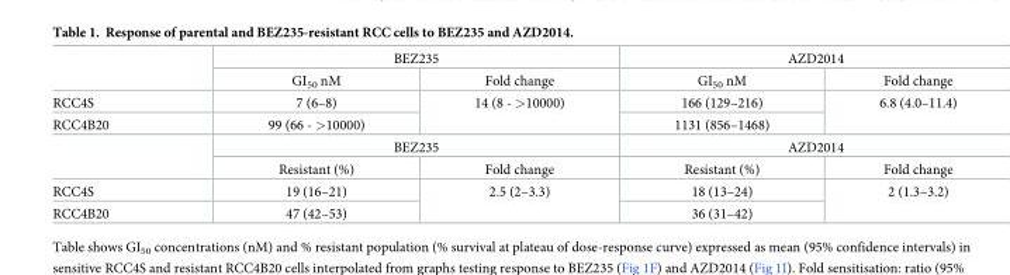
<table><thead><tr><td rowspan="2"></td><td colspan="2">BEZ235</td><td colspan="2">AZD2014</td></tr><tr><td>GI<sub>50</sub> nM</td><td>Fold change</td><td>GI<sub>50</sub> nM</td><td>Fold change</td></tr></thead><tbody><tr><td>RCC4S</td><td>7 (6–8)</td><td rowspan="2">14 (8 - &gt;10000)</td><td>166 (129–216)</td><td rowspan="2">6.8 (4.0–11.4)</td></tr><tr><td rowspan="3">RCC4B20</td><td>99 (66 - &gt;10000)</td><td>1131 (856–1468)</td></tr><tr><td colspan="2">BEZ235</td><td colspan="2">AZD2014</td></tr><tr><td>Resistant (%)</td><td>Fold change</td><td>Resistant (%)</td><td>Fold change</td></tr><tr><td>RCC4S</td><td>19 (16–21)</td><td rowspan="2">2.5 (2–3.3)</td><td>18 (13–24)</td><td rowspan="2">2 (1.3–3.2)</td></tr><tr><td>RCC4B20</td><td>47 (42–53)</td><td>36 (31–42)</td></tr></tbody></table>